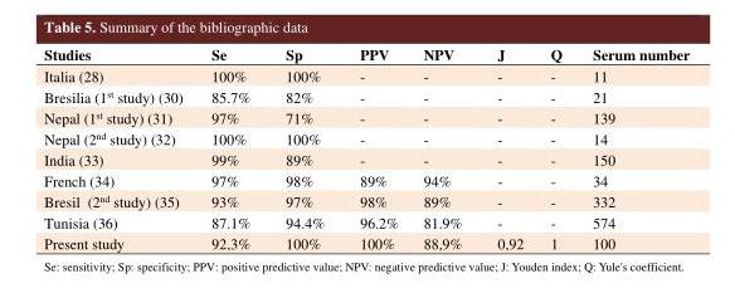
<table><thead><tr><td>Studies</td><td>Se</td><td>Sp</td><td>PPV</td><td>NPV</td><td>J</td><td>Q</td><td>Serum number</td></tr></thead><tbody><tr><td>Italia (28)</td><td>100%</td><td>100%</td><td>-</td><td>-</td><td>-</td><td>-</td><td>11</td></tr><tr><td>Bresilia (1<sup>st</sup> study) (30)</td><td>85.7%</td><td>82%</td><td>-</td><td>-</td><td>-</td><td>-</td><td>21</td></tr><tr><td>Nepal (1<sup>st</sup> study) (31)</td><td>97%</td><td>71%</td><td>-</td><td>-</td><td>-</td><td>-</td><td>139</td></tr><tr><td>Nepal (2<sup>nd</sup> study) (32)</td><td>100%</td><td>100%</td><td>-</td><td>-</td><td>-</td><td>-</td><td>14</td></tr><tr><td>India (33)</td><td>99%</td><td>89%</td><td>-</td><td>-</td><td>-</td><td>-</td><td>150</td></tr><tr><td>French (34)</td><td>97%</td><td>98%</td><td>89%</td><td>94%</td><td>-</td><td>-</td><td>34</td></tr><tr><td>Bresil (2<sup>nd</sup> study) (35)</td><td>93%</td><td>97%</td><td>98%</td><td>89%</td><td>-</td><td>-</td><td>332</td></tr><tr><td>Tunisia (36)</td><td>87.1%</td><td>94.4%</td><td>96.2%</td><td>81.9%</td><td>-</td><td>-</td><td>574</td></tr><tr><td>Present study</td><td>92,3%</td><td>100%</td><td>100%</td><td>88,9%</td><td>0,92</td><td>1</td><td>100</td></tr></tbody></table>